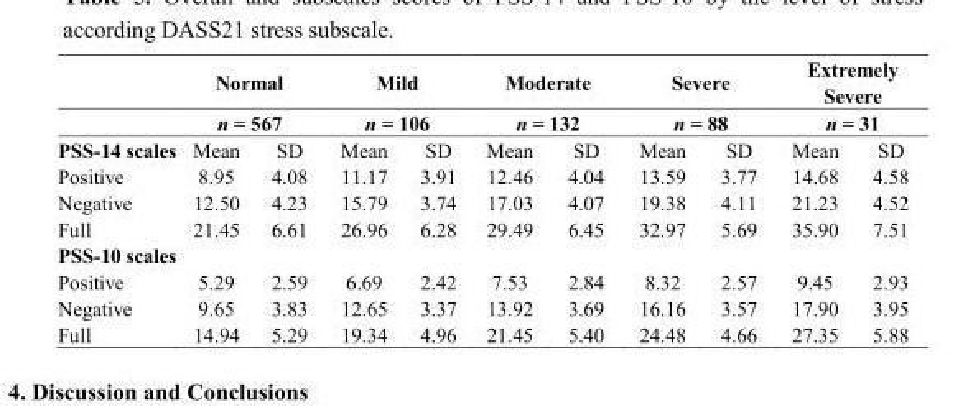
<table><thead><tr><td rowspan="3">PSS-14 scales</td><td rowspan="2" colspan="2">Normal n = 567</td><td rowspan="2" colspan="2">Mild n = 106</td><td rowspan="2" colspan="2">Moderate n = 132</td><td rowspan="2" colspan="2">Severe n = 88</td><td rowspan="2" colspan="2">Extremely Severe n = 31</td></tr><tr></tr><tr><td>Mean</td><td>SD</td><td>Mean</td><td>SD</td><td>Mean</td><td>SD</td><td>Mean</td><td>SD</td><td>Mean</td><td>SD</td></tr></thead><tbody><tr><td>Positive</td><td>8.95</td><td>4.08</td><td>11.17</td><td>3.91</td><td>12.46</td><td>4.04</td><td>13.59</td><td>3.77</td><td>14.68</td><td>4.58</td></tr><tr><td>Negative</td><td>12.50</td><td>4.23</td><td>15.79</td><td>3.74</td><td>17.03</td><td>4.07</td><td>19.38</td><td>4.11</td><td>21.23</td><td>4.52</td></tr><tr><td>Full</td><td>21.45</td><td>6.61</td><td>26.96</td><td>6.28</td><td>29.49</td><td>6.45</td><td>32.97</td><td>5.69</td><td>35.90</td><td>7.51</td></tr><tr><td colspan="11">PSS-10 scales</td></tr><tr><td>Positive</td><td>5.29</td><td>2.59</td><td>6.69</td><td>2.42</td><td>7.53</td><td>2.84</td><td>8.32</td><td>2.57</td><td>9.45</td><td>2.93</td></tr><tr><td>Negative</td><td>9.65</td><td>3.83</td><td>12.65</td><td>3.37</td><td>13.92</td><td>3.69</td><td>16.16</td><td>3.57</td><td>17.90</td><td>3.95</td></tr><tr><td>Full</td><td>14.94</td><td>5.29</td><td>19.34</td><td>4.96</td><td>21.45</td><td>5.40</td><td>24.48</td><td>4.66</td><td>27.35</td><td>5.88</td></tr></tbody></table>